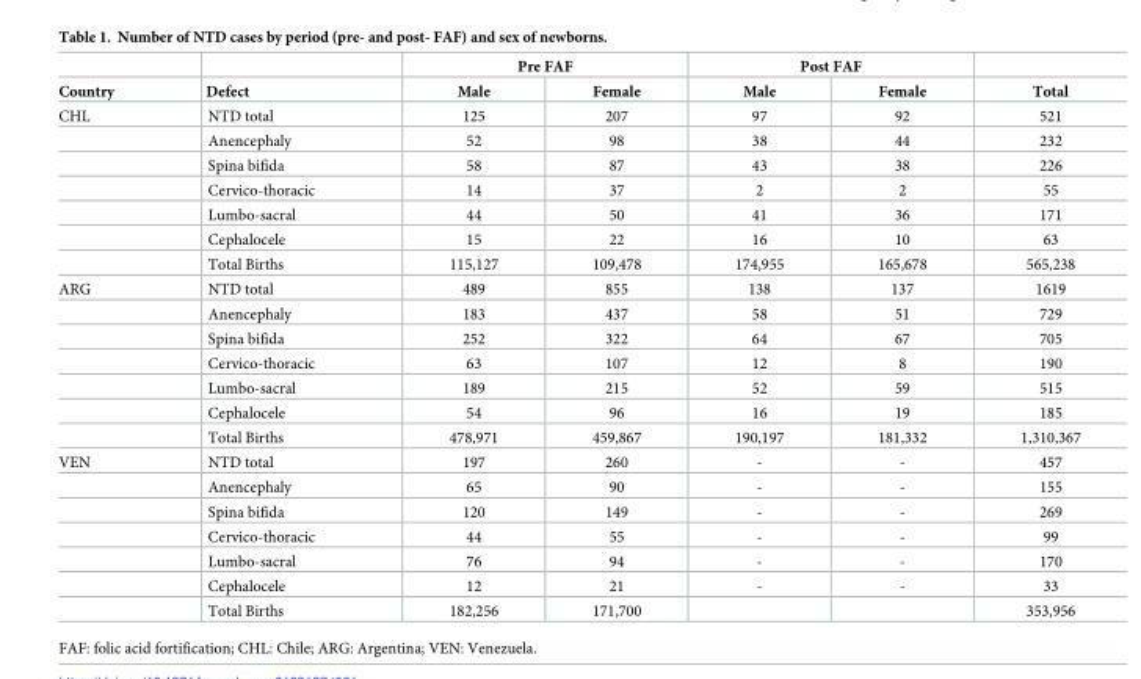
<table><thead><tr><td rowspan="2">Country</td><td rowspan="2">Defect</td><td colspan="2">Pre FAF</td><td colspan="2">Post FAF</td><td rowspan="2">Total</td></tr><tr><td>Male</td><td>Female</td><td>Male</td><td>Female</td></tr></thead><tbody><tr><td rowspan="7">CHL</td><td>NTD total</td><td>125</td><td>207</td><td>97</td><td>92</td><td>521</td></tr><tr><td>Anencephaly</td><td>52</td><td>98</td><td>38</td><td>44</td><td>232</td></tr><tr><td>Spina bifida</td><td>58</td><td>87</td><td>43</td><td>38</td><td>226</td></tr><tr><td>Cervico-thoracic</td><td>14</td><td>37</td><td>2</td><td>2</td><td>55</td></tr><tr><td>Lumbo-sacral</td><td>44</td><td>50</td><td>41</td><td>36</td><td>171</td></tr><tr><td>Cephalocele</td><td>15</td><td>22</td><td>16</td><td>10</td><td>63</td></tr><tr><td>Total Births</td><td>115,127</td><td>109,478</td><td>174,955</td><td>165,678</td><td>565,238</td></tr><tr><td rowspan="7">ARG</td><td>NTD total</td><td>489</td><td>855</td><td>138</td><td>137</td><td>1619</td></tr><tr><td>Anencephaly</td><td>183</td><td>437</td><td>58</td><td>51</td><td>729</td></tr><tr><td>Spina bifida</td><td>252</td><td>322</td><td>64</td><td>67</td><td>705</td></tr><tr><td>Cervico-thoracic</td><td>63</td><td>107</td><td>12</td><td>8</td><td>190</td></tr><tr><td>Lumbo-sacral</td><td>189</td><td>215</td><td>52</td><td>59</td><td>515</td></tr><tr><td>Cephalocele</td><td>54</td><td>96</td><td>16</td><td>19</td><td>185</td></tr><tr><td>Total Births</td><td>478,971</td><td>459,867</td><td>190,197</td><td>181,332</td><td>1,310,367</td></tr><tr><td rowspan="7">VEN</td><td>NTD total</td><td>197</td><td>260</td><td>-</td><td>-</td><td>457</td></tr><tr><td>Anencephaly</td><td>65</td><td>90</td><td>-</td><td>-</td><td>155</td></tr><tr><td>Spina bifida</td><td>120</td><td>149</td><td>-</td><td>-</td><td>269</td></tr><tr><td>Cervico-thoracic</td><td>44</td><td>55</td><td>-</td><td>-</td><td>99</td></tr><tr><td>Lumbo-sacral</td><td>76</td><td>94</td><td>-</td><td>-</td><td>170</td></tr><tr><td>Cephalocele</td><td>12</td><td>21</td><td>-</td><td>-</td><td>33</td></tr><tr><td>Total Births</td><td>182,256</td><td>171,700</td><td></td><td></td><td>353,956</td></tr></tbody></table>